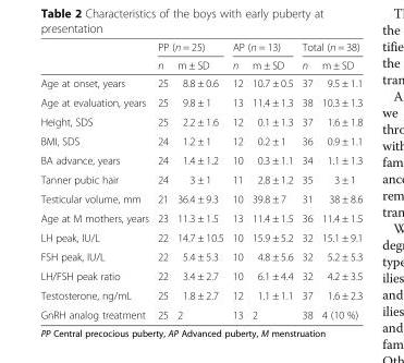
<table><thead><tr><td rowspan="2"></td><td colspan="2">PP (n = 25)</td><td colspan="2">AP (n = 13)</td><td colspan="2">Total (n = 38)</td></tr><tr><td>n</td><td>m ± SD</td><td>n</td><td>m ± SD</td><td>n</td><td>m ± SD</td></tr></thead><tbody><tr><td>Age at onset, years</td><td>25</td><td>8.8 ± 0.6</td><td>12</td><td>10.7 ± 0.5</td><td>37</td><td>9.5 ± 1.1</td></tr><tr><td>Age at evaluation, years</td><td>25</td><td>9.8 ± 1</td><td>13</td><td>11.4 ± 1.3</td><td>38</td><td>10.3 ± 1.3</td></tr><tr><td>Height, SDS</td><td>25</td><td>2.2 ± 1.6</td><td>12</td><td>0.1 ± 1.3</td><td>37</td><td>1.6 ± 1.8</td></tr><tr><td>BMI, SDS</td><td>24</td><td>1.2 ± 1</td><td>12</td><td>0.2 ± 1</td><td>36</td><td>0.9 ± 1.1</td></tr><tr><td>BA advance, years</td><td>24</td><td>1.4 ± 1.2</td><td>10</td><td>0.3 ± 1.1</td><td>34</td><td>1.1 ± 1.3</td></tr><tr><td>Tanner pubic hair</td><td>24</td><td>3 ± 1</td><td>11</td><td>2.8 ± 1.2</td><td>35</td><td>3 ± 1</td></tr><tr><td>Testicular volume, mm</td><td>21</td><td>36.4 ± 9.3</td><td>10</td><td>39.8 ± 7</td><td>31</td><td>38 ± 8.6</td></tr><tr><td>Age at M mothers, years</td><td>23</td><td>11.3 ± 1.5</td><td>13</td><td>11.4 ± 1.5</td><td>36</td><td>11.4 ± 1.5</td></tr><tr><td>LH peak, IU/L</td><td>22</td><td>14.7 ± 10.5</td><td>10</td><td>15.9 ± 5.2</td><td>32</td><td>15.1 ± 9.1</td></tr><tr><td>FSH peak, IU/L</td><td>22</td><td>5.4 ± 5.3</td><td>10</td><td>4.8 ± 5.6</td><td>32</td><td>5.2 ± 5.3</td></tr><tr><td>LH/FSH peak ratio</td><td>22</td><td>3.4 ± 2.7</td><td>10</td><td>6.1 ± 4.4</td><td>32</td><td>4.2 ± 3.5</td></tr><tr><td>Testosterone, ng/mL</td><td>25</td><td>1.8 ± 2.7</td><td>12</td><td>1.1 ± 1.1</td><td>37</td><td>1.6 ± 2.3</td></tr><tr><td>GnRH analog treatment</td><td>25</td><td>2</td><td>13</td><td>2</td><td>38</td><td>4 (10 %)</td></tr></tbody></table>